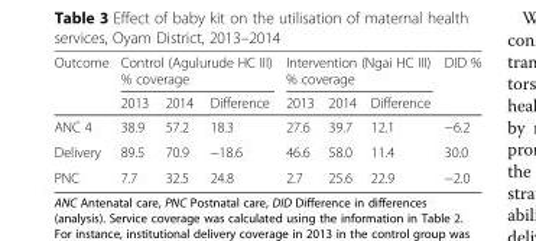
<table><thead><tr><td rowspan="2">Outcome</td><td colspan="3">Control (Agulurude HC III) % coverage</td><td colspan="3">Intervention (Ngai HC III) % coverage</td><td rowspan="2">DID %</td></tr><tr><td>2013</td><td>2014</td><td>Difference</td><td>2013</td><td>2014</td><td>Difference</td></tr></thead><tbody><tr><td>ANC 4</td><td>38.9</td><td>57.2</td><td>18.3</td><td>27.6</td><td>39.7</td><td>12.1</td><td>−6.2</td></tr><tr><td>Delivery</td><td>89.5</td><td>70.9</td><td>−18.6</td><td>46.6</td><td>58.0</td><td>11.4</td><td>30.0</td></tr><tr><td>PNC</td><td>7.7</td><td>32.5</td><td>24.8</td><td>2.7</td><td>25.6</td><td>22.9</td><td>−2.0</td></tr></tbody></table>